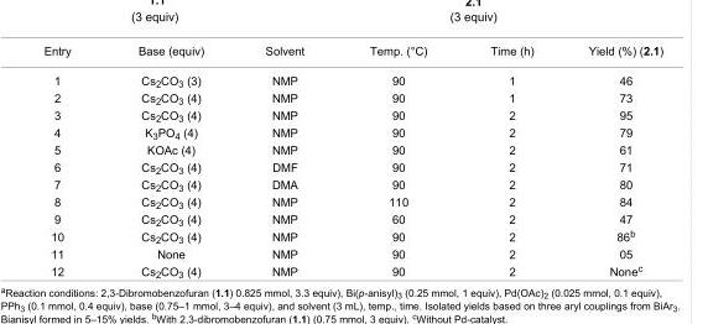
<table><tbody><tr><td>Entry</td><td>Base (equiv)</td><td>Solvent</td><td>Temp. (°C)</td><td>Time (h)</td><td>Yield (%) (2.1)</td></tr><tr><td>1</td><td>Cs<sub>2</sub>CO<sub>3</sub> (3)</td><td>NMP</td><td>90</td><td>1</td><td>46</td></tr><tr><td>2</td><td>Cs<sub>2</sub>CO<sub>3</sub> (4)</td><td>NMP</td><td>90</td><td>1</td><td>73</td></tr><tr><td>3</td><td>Cs<sub>2</sub>CO<sub>3</sub> (4)</td><td>NMP</td><td>90</td><td>2</td><td>95</td></tr><tr><td>4</td><td>K<sub>3</sub>PO<sub>4</sub> (4)</td><td>NMP</td><td>90</td><td>2</td><td>79</td></tr><tr><td>5</td><td>KOAc (4)</td><td>NMP</td><td>90</td><td>2</td><td>61</td></tr><tr><td>6</td><td>Cs<sub>2</sub>CO<sub>3</sub> (4)</td><td>DMF</td><td>90</td><td>2</td><td>71</td></tr><tr><td>7</td><td>Cs<sub>2</sub>CO<sub>3</sub> (4)</td><td>DMA</td><td>90</td><td>2</td><td>80</td></tr><tr><td>8</td><td>Cs<sub>2</sub>CO<sub>3</sub> (4)</td><td>NMP</td><td>110</td><td>2</td><td>84</td></tr><tr><td>9</td><td>Cs<sub>2</sub>CO<sub>3</sub> (4)</td><td>NMP</td><td>60</td><td>2</td><td>47</td></tr><tr><td>10</td><td>Cs<sub>2</sub>CO<sub>3</sub> (4)</td><td>NMP</td><td>90</td><td>2</td><td>86<sup>b</sup></td></tr><tr><td>11</td><td>None</td><td>NMP</td><td>90</td><td>2</td><td>05</td></tr><tr><td>12</td><td>Cs<sub>2</sub>CO<sub>3</sub> (4)</td><td>NMP</td><td>90</td><td>2</td><td>None<sup>c</sup></td></tr></tbody></table>